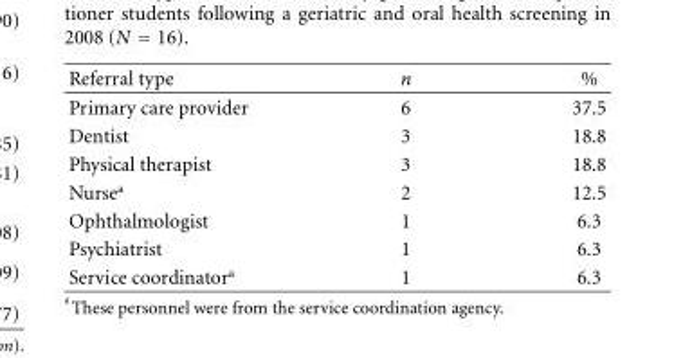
<table><thead><tr><td>Referral type</td><td>n</td><td>%</td></tr></thead><tbody><tr><td>Primary care provider</td><td>6</td><td>37.5</td></tr><tr><td>Dentist</td><td>3</td><td>18.8</td></tr><tr><td>Physical therapist</td><td>3</td><td>18.8</td></tr><tr><td>Nurse<sup>a</sup></td><td>2</td><td>12.5</td></tr><tr><td>Ophthalmologist</td><td>1</td><td>6.3</td></tr><tr><td>Psychiatrist</td><td>1</td><td>6.3</td></tr><tr><td>Service coordinator<sup>a</sup></td><td>1</td><td>6.3</td></tr></tbody></table>